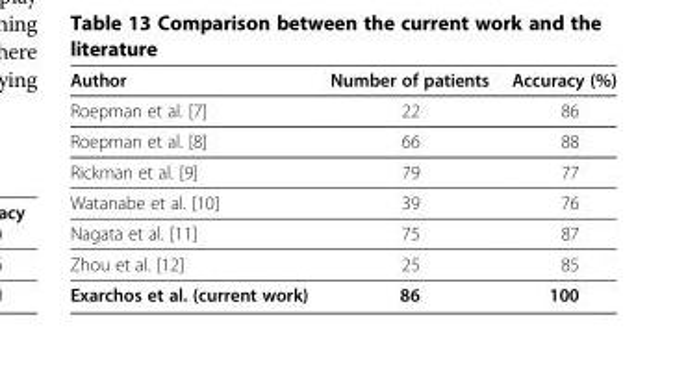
<table><thead><tr><td>Author</td><td>Number of patients</td><td>Accuracy (%)</td></tr></thead><tbody><tr><td>Roepman et al. [7]</td><td>22</td><td>86</td></tr><tr><td>Roepman et al. [8]</td><td>66</td><td>88</td></tr><tr><td>Rickman et al. [9]</td><td>79</td><td>77</td></tr><tr><td>Watanabe et al. [10]</td><td>39</td><td>76</td></tr><tr><td>Nagata et al. [11]</td><td>75</td><td>87</td></tr><tr><td>Zhou et al. [12]</td><td>25</td><td>85</td></tr><tr><td>Exarchos et al. (current work)</td><td>86</td><td>100</td></tr></tbody></table>